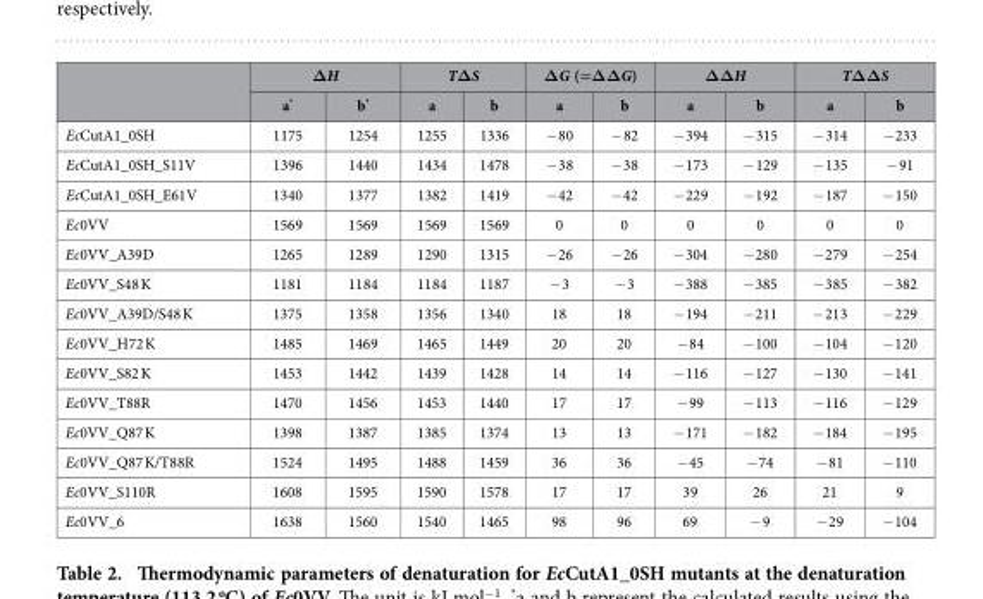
<table><thead><tr><td rowspan="2"></td><td colspan="2">ΔH</td><td colspan="2">TΔS</td><td colspan="2">ΔG (=ΔΔG)</td><td colspan="2">ΔΔH</td><td colspan="2">TΔΔS</td></tr><tr><td>a*</td><td>b*</td><td>a</td><td>b</td><td>a</td><td>b</td><td>a</td><td>b</td><td>a</td><td>b</td></tr></thead><tbody><tr><td>EcCutA1_0SH</td><td>1175</td><td>1254</td><td>1255</td><td>1336</td><td>− 80</td><td>− 82</td><td>− 394</td><td>− 315</td><td>− 314</td><td>− 233</td></tr><tr><td>EcCutA1_0SH_S11V</td><td>1396</td><td>1440</td><td>1434</td><td>1478</td><td>− 38</td><td>− 38</td><td>− 173</td><td>− 129</td><td>− 135</td><td>− 91</td></tr><tr><td>EcCutA1_0SH_E61V</td><td>1340</td><td>1377</td><td>1382</td><td>1419</td><td>− 42</td><td>− 42</td><td>− 229</td><td>− 192</td><td>− 187</td><td>− 150</td></tr><tr><td>Ec0VV</td><td>1569</td><td>1569</td><td>1569</td><td>1569</td><td>0</td><td>0</td><td>0</td><td>0</td><td>0</td><td>0</td></tr><tr><td>Ec0VV_A39D</td><td>1265</td><td>1289</td><td>1290</td><td>1315</td><td>− 26</td><td>− 26</td><td>− 304</td><td>− 280</td><td>− 279</td><td>− 254</td></tr><tr><td>Ec0VV_S48 K</td><td>1181</td><td>1184</td><td>1184</td><td>1187</td><td>− 3</td><td>− 3</td><td>− 388</td><td>− 385</td><td>− 385</td><td>− 382</td></tr><tr><td>Ec0VV_A39D/S48 K</td><td>1375</td><td>1358</td><td>1356</td><td>1340</td><td>18</td><td>18</td><td>− 194</td><td>− 211</td><td>− 213</td><td>− 229</td></tr><tr><td>Ec0VV_H72 K</td><td>1485</td><td>1469</td><td>1465</td><td>1449</td><td>20</td><td>20</td><td>− 84</td><td>− 100</td><td>− 104</td><td>− 120</td></tr><tr><td>Ec0VV_S82 K</td><td>1453</td><td>1442</td><td>1439</td><td>1428</td><td>14</td><td>14</td><td>− 116</td><td>− 127</td><td>− 130</td><td>− 141</td></tr><tr><td>Ec0VV_T88R</td><td>1470</td><td>1456</td><td>1453</td><td>1440</td><td>17</td><td>17</td><td>− 99</td><td>− 113</td><td>− 116</td><td>− 129</td></tr><tr><td>Ec0VV_Q87 K</td><td>1398</td><td>1387</td><td>1385</td><td>1374</td><td>13</td><td>13</td><td>− 171</td><td>− 182</td><td>− 184</td><td>− 195</td></tr><tr><td>Ec0VV_Q87 K/T88R</td><td>1524</td><td>1495</td><td>1488</td><td>1459</td><td>36</td><td>36</td><td>− 45</td><td>− 74</td><td>− 81</td><td>− 110</td></tr><tr><td>Ec0VV_S110R</td><td>1608</td><td>1595</td><td>1590</td><td>1578</td><td>17</td><td>17</td><td>39</td><td>26</td><td>21</td><td>9</td></tr><tr><td>Ec0VV_6</td><td>1638</td><td>1560</td><td>1540</td><td>1465</td><td>98</td><td>96</td><td>69</td><td>− 9</td><td>− 29</td><td>− 104</td></tr></tbody></table>